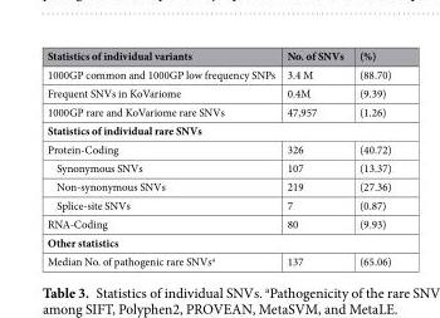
<table><thead><tr><td>Statistics of individual variants</td><td>No. of SNVs</td><td>(%)</td></tr></thead><tbody><tr><td>1000GP common and 1000GP low frequency SNPs</td><td>3.4 M</td><td>(88.70)</td></tr><tr><td>Frequent SNVs in KoVariome</td><td>0.4M</td><td>(9.39)</td></tr><tr><td>1000GP rare and KoVariome rare SNVs</td><td>47,957</td><td>(1.26)</td></tr><tr><td colspan="3">Statistics of individual rare SNVs</td></tr><tr><td>Protein-Coding</td><td>326</td><td>(40.72)</td></tr><tr><td>Synonymous SNVs</td><td>107</td><td>(13.37)</td></tr><tr><td>Non-synonymous SNVs</td><td>219</td><td>(27.36)</td></tr><tr><td>Splice-site SNVs</td><td>7</td><td>(0.87)</td></tr><tr><td>RNA-Coding</td><td>80</td><td>(9.93)</td></tr><tr><td colspan="3">Other statistics</td></tr><tr><td>Median No. of pathogenic rare SNVs<sup>a</sup></td><td>137</td><td>(65.06)</td></tr></tbody></table>